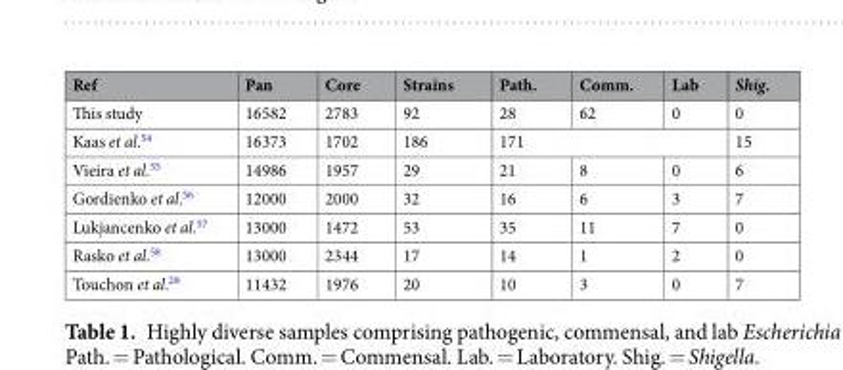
<table><thead><tr><td>Ref</td><td>Pan</td><td>Core</td><td>Strains</td><td>Path.</td><td>Comm.</td><td>Lab</td><td>Shig.</td></tr></thead><tbody><tr><td>This study</td><td>16582</td><td>2783</td><td>92</td><td>28</td><td>62</td><td>0</td><td>0</td></tr><tr><td>Kaas et al.<sup>54</sup></td><td>16373</td><td>1702</td><td>186</td><td colspan="3">171</td><td>15</td></tr><tr><td>Vieira et al.<sup>55</sup></td><td>14986</td><td>1957</td><td>29</td><td>21</td><td>8</td><td>0</td><td>6</td></tr><tr><td>Gordienko et al.<sup>56</sup></td><td>12000</td><td>2000</td><td>32</td><td>16</td><td>6</td><td>3</td><td>7</td></tr><tr><td>Lukjancenko et al.<sup>57</sup></td><td>13000</td><td>1472</td><td>53</td><td>35</td><td>11</td><td>7</td><td>0</td></tr><tr><td>Rasko et al.<sup>58</sup></td><td>13000</td><td>2344</td><td>17</td><td>14</td><td>1</td><td>2</td><td>0</td></tr><tr><td>Touchon et al.<sup>28</sup></td><td>11432</td><td>1976</td><td>20</td><td>10</td><td>3</td><td>0</td><td>7</td></tr></tbody></table>